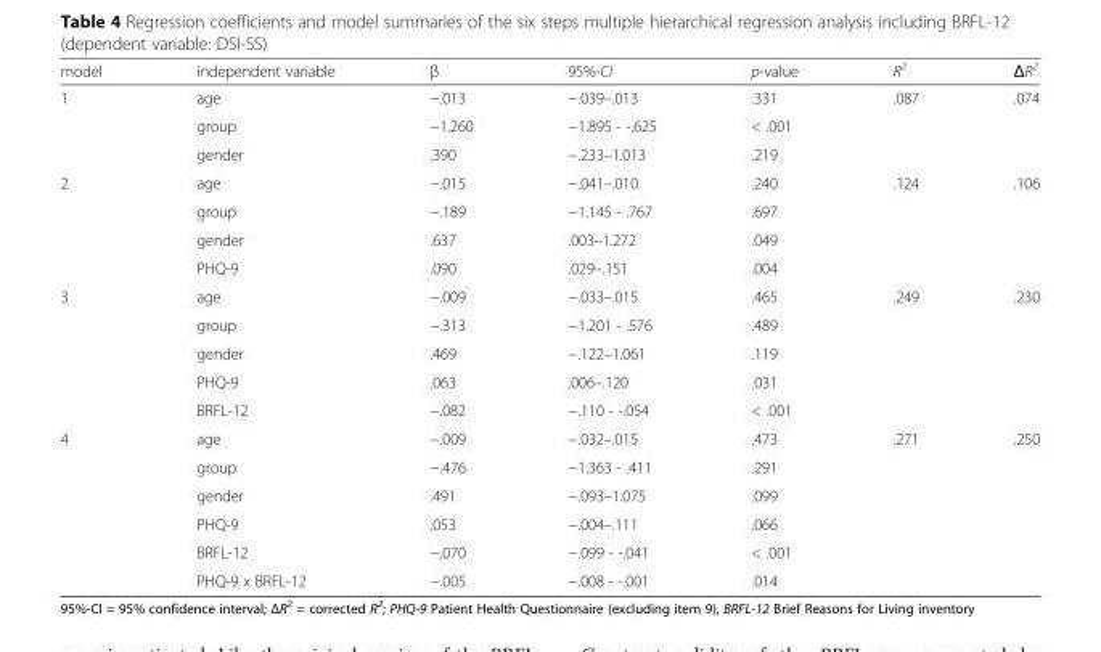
<table><thead><tr><td>model</td><td>independent variable</td><td>β</td><td>95%-CI</td><td>p-value</td><td>R<sup>2</sup></td><td>ΔR<sup>2</sup></td></tr></thead><tbody><tr><td rowspan="3">1</td><td>age</td><td>−.013</td><td>−.039–.013</td><td>.331</td><td>.087</td><td>.074</td></tr><tr><td>group</td><td>−1.260</td><td>−1.895 - -.625</td><td>&lt; .001</td><td></td><td></td></tr><tr><td>gender</td><td>.390</td><td>−.233–1.013</td><td>.219</td><td></td><td></td></tr><tr><td rowspan="4">2</td><td>age</td><td>−.015</td><td>−.041–.010</td><td>.240</td><td>.124</td><td>.106</td></tr><tr><td>group</td><td>−.189</td><td>−1.145 - .767</td><td>.697</td><td></td><td></td></tr><tr><td>gender</td><td>.637</td><td>.003–1.272</td><td>.049</td><td></td><td></td></tr><tr><td>PHQ-9</td><td>.090</td><td>.029–.151</td><td>.004</td><td></td><td></td></tr><tr><td rowspan="5">3</td><td>age</td><td>−.009</td><td>−.033–.015</td><td>.465</td><td>.249</td><td>.230</td></tr><tr><td>group</td><td>−.313</td><td>−1.201 - .576</td><td>.489</td><td></td><td></td></tr><tr><td>gender</td><td>.469</td><td>−.122–1.061</td><td>.119</td><td></td><td></td></tr><tr><td>PHQ-9</td><td>.063</td><td>.006–.120</td><td>.031</td><td></td><td></td></tr><tr><td>BRFL-12</td><td>−.082</td><td>−.110 - -.054</td><td>&lt; .001</td><td></td><td></td></tr><tr><td rowspan="6">4</td><td>age</td><td>−.009</td><td>−.032–.015</td><td>.473</td><td>.271</td><td>.250</td></tr><tr><td>group</td><td>−.476</td><td>−1.363 - .411</td><td>.291</td><td></td><td></td></tr><tr><td>gender</td><td>.491</td><td>−.093–1.075</td><td>.099</td><td></td><td></td></tr><tr><td>PHQ-9</td><td>.053</td><td>−.004–.111</td><td>.066</td><td></td><td></td></tr><tr><td>BRFL-12</td><td>−.070</td><td>−.099 - -.041</td><td>&lt; .001</td><td></td><td></td></tr><tr><td>PHQ-9 x BRFL-12</td><td>−.005</td><td>−.008 - -.001</td><td>.014</td><td></td><td></td></tr></tbody></table>